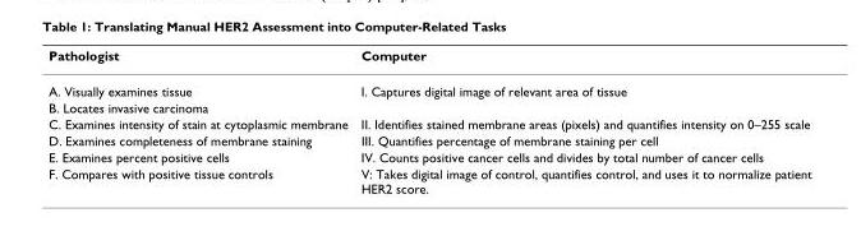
<table><thead><tr><td>Pathologist</td><td>Computer</td></tr></thead><tbody><tr><td>A. Visually examines tissue</td><td>I. Captures digital image of relevant area of tissue</td></tr><tr><td colspan="2">B. Locates invasive carcinoma</td></tr><tr><td>C. Examines intensity of stain at cytoplasmic membrane</td><td>II. Identifies stained membrane areas (pixels) and quantifies intensity on 0–255 scale</td></tr><tr><td>D. Examines completeness of membrane staining</td><td>III. Quantifies percentage of membrane staining per cell</td></tr><tr><td>E. Examines percent positive cells</td><td>IV. Counts positive cancer cells and divides by total number of cancer cells</td></tr><tr><td>F. Compares with positive tissue controls</td><td>V: Takes digital image of control, quantifies control, and uses it to normalize patient HER2 score.</td></tr></tbody></table>